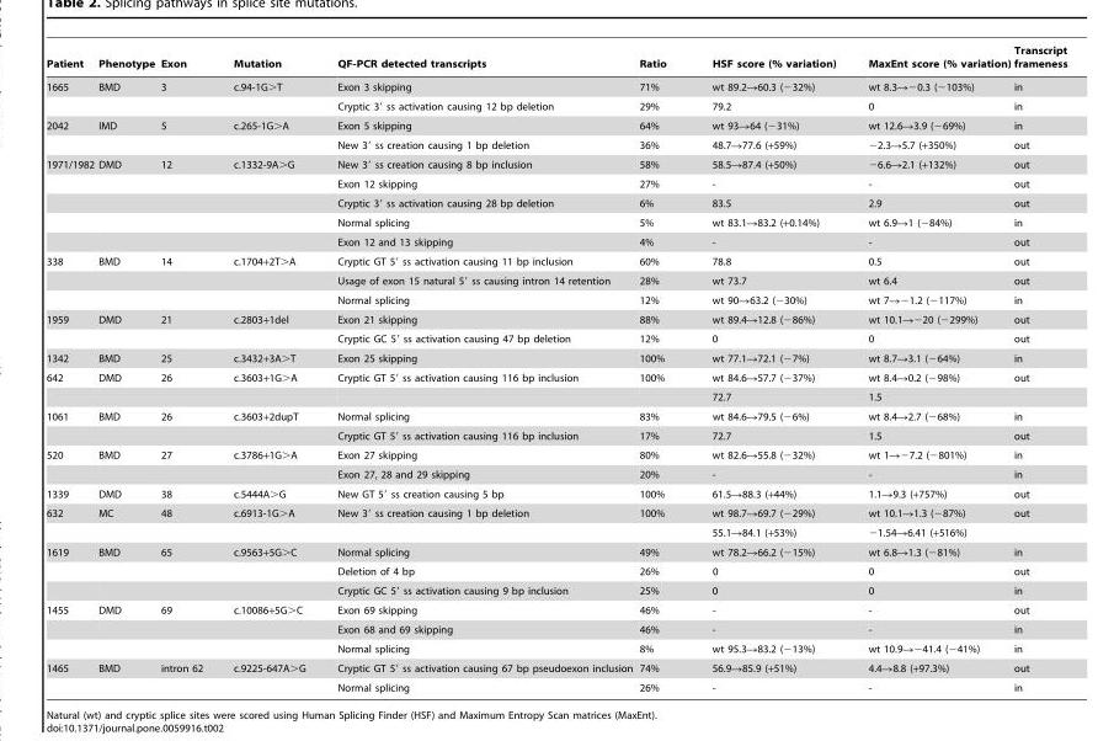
<table><thead><tr><td>Patient</td><td>Phenotype</td><td>Exon</td><td>Mutation</td><td>QF-PCR detected transcripts</td><td>Ratio</td><td>HSF score (% variation)</td><td>MaxEnt score (% variation)</td><td>Transcript frameness</td></tr></thead><tbody><tr><td rowspan="2">1665</td><td>BMD</td><td>3</td><td>c.94-1G&gt;T</td><td>Exon 3 skipping</td><td>71%</td><td>wt 89.2→60.3 (−32%)</td><td>wt 8.3→−0.3 (−103%)</td><td>in</td></tr><tr><td></td><td></td><td></td><td>Cryptic 3′ ss activation causing 12 bp deletion</td><td>29%</td><td>79.2</td><td>0</td><td>in</td></tr><tr><td rowspan="2">2042</td><td>IMD</td><td>5</td><td>c.265-1G&gt;A</td><td>Exon 5 skipping</td><td>64%</td><td>wt 93→64 (−31%)</td><td>wt 12.6→3.9 (−69%)</td><td>in</td></tr><tr><td></td><td></td><td></td><td>New 3′ ss creation causing 1 bp deletion</td><td>36%</td><td>48.7→77.6 (+59%)</td><td>−2.3→5.7 (+350%)</td><td>out</td></tr><tr><td rowspan="5">1971/1982</td><td>DMD</td><td>12</td><td>c.1332-9A&gt;G</td><td>New 3′ ss creation causing 8 bp inclusion</td><td>58%</td><td>58.5→87.4 (+50%)</td><td>−6.6→2.1 (+132%)</td><td>out</td></tr><tr><td></td><td></td><td></td><td>Exon 12 skipping</td><td>27%</td><td>-</td><td>-</td><td>out</td></tr><tr><td></td><td></td><td></td><td>Cryptic 3′ ss activation causing 28 bp deletion</td><td>6%</td><td>83.5</td><td>2.9</td><td>out</td></tr><tr><td></td><td></td><td></td><td>Normal splicing</td><td>5%</td><td>wt 83.1→83.2 (+0.14%)</td><td>wt 6.9→1 (−84%)</td><td>in</td></tr><tr><td></td><td></td><td></td><td>Exon 12 and 13 skipping</td><td>4%</td><td>-</td><td>-</td><td>out</td></tr><tr><td rowspan="3">338</td><td>BMD</td><td>14</td><td>c.1704+2T&gt;A</td><td>Cryptic GT 5′ ss activation causing 11 bp inclusion</td><td>60%</td><td>78.8</td><td>0.5</td><td>out</td></tr><tr><td></td><td></td><td></td><td>Usage of exon 15 natural 5′ ss causing intron 14 retention</td><td>28%</td><td>wt 73.7</td><td>wt 6.4</td><td>out</td></tr><tr><td></td><td></td><td></td><td>Normal splicing</td><td>12%</td><td>wt 90→63.2 (−30%)</td><td>wt 7→−1.2 (−117%)</td><td>in</td></tr><tr><td rowspan="2">1959</td><td>DMD</td><td>21</td><td>c.2803+1del</td><td>Exon 21 skipping</td><td>88%</td><td>wt 89.4→12.8 (−86%)</td><td>wt 10.1→−20 (−299%)</td><td>out</td></tr><tr><td></td><td></td><td></td><td>Cryptic GC 5′ ss activation causing 47 bp deletion</td><td>12%</td><td>0</td><td>0</td><td>out</td></tr><tr><td>1342</td><td>BMD</td><td>25</td><td>c.3432+3A&gt;T</td><td>Exon 25 skipping</td><td>100%</td><td>wt 77.1→72.1 (−7%)</td><td>wt 8.7→3.1 (−64%)</td><td>in</td></tr><tr><td rowspan="2">642</td><td>DMD</td><td>26</td><td>c.3603+1G&gt;A</td><td>Cryptic GT 5′ ss activation causing 116 bp inclusion</td><td>100%</td><td>wt 84.6→57.7 (−37%)</td><td>wt 8.4→0.2 (−98%)</td><td>out</td></tr><tr><td></td><td></td><td></td><td></td><td></td><td>72.7</td><td>1.5</td><td></td></tr><tr><td rowspan="2">1061</td><td>BMD</td><td>26</td><td>c.3603+2dupT</td><td>Normal splicing</td><td>83%</td><td>wt 84.6→79.5 (−6%)</td><td>wt 8.4→2.7 (−68%)</td><td>in</td></tr><tr><td></td><td></td><td></td><td>Cryptic GT 5′ ss activation causing 116 bp inclusion</td><td>17%</td><td>72.7</td><td>1.5</td><td>out</td></tr><tr><td rowspan="2">520</td><td>BMD</td><td>27</td><td>c.3786+1G&gt;A</td><td>Exon 27 skipping</td><td>80%</td><td>wt 82.6→55.8 (−32%)</td><td>wt 1→−7.2 (−801%)</td><td>in</td></tr><tr><td></td><td></td><td></td><td>Exon 27, 28 and 29 skipping</td><td>20%</td><td>-</td><td>-</td><td>in</td></tr><tr><td>1339</td><td>DMD</td><td>38</td><td>c.5444A&gt;G</td><td>New GT 5′ ss creation causing 5 bp</td><td>100%</td><td>61.5→88.3 (+44%)</td><td>1.1→9.3 (+757%)</td><td>out</td></tr><tr><td rowspan="2">632</td><td>MC</td><td>48</td><td>c.6913-1G&gt;A</td><td>New 3′ ss creation causing 1 bp deletion</td><td>100%</td><td>wt 98.7→69.7 (−29%)</td><td>wt 10.1→1.3 (−87%)</td><td>out</td></tr><tr><td></td><td></td><td></td><td></td><td></td><td>55.1→84.1 (+53%)</td><td>−1.54→6.41 (+516%)</td><td></td></tr><tr><td rowspan="3">1619</td><td>BMD</td><td>65</td><td>c.9563+5G&gt;C</td><td>Normal splicing</td><td>49%</td><td>wt 78.2→66.2 (−15%)</td><td>wt 6.8→1.3 (−81%)</td><td>in</td></tr><tr><td></td><td></td><td></td><td>Deletion of 4 bp</td><td>26%</td><td>0</td><td>0</td><td>out</td></tr><tr><td></td><td></td><td></td><td>Cryptic GC 5′ ss activation causing 9 bp inclusion</td><td>25%</td><td>0</td><td>0</td><td>in</td></tr><tr><td rowspan="3">1455</td><td>DMD</td><td>69</td><td>c.10086+5G&gt;C</td><td>Exon 69 skipping</td><td>46%</td><td>-</td><td>-</td><td>out</td></tr><tr><td></td><td></td><td></td><td>Exon 68 and 69 skipping</td><td>46%</td><td>-</td><td>-</td><td>in</td></tr><tr><td></td><td></td><td></td><td>Normal splicing</td><td>8%</td><td>wt 95.3→83.2 (−13%)</td><td>wt 10.9→−41.4 (−41%)</td><td>in</td></tr><tr><td rowspan="2">1465</td><td>BMD</td><td>intron 62</td><td>c.9225-647A&gt;G</td><td>Cryptic GT 5′ ss activation causing 67 bp pseudoexon inclusion</td><td>74%</td><td>56.9→85.9 (+51%)</td><td>4.4→8.8 (+97.3%)</td><td>out</td></tr><tr><td></td><td></td><td></td><td>Normal splicing</td><td>26%</td><td>-</td><td>-</td><td>in</td></tr></tbody></table>